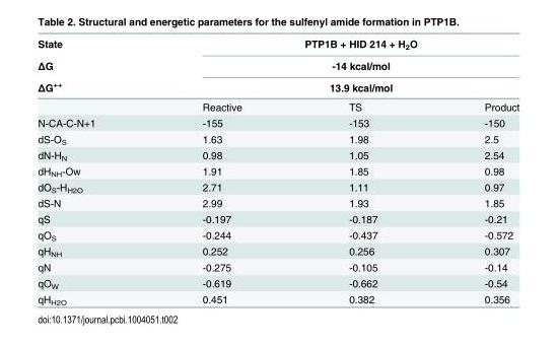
<table><thead><tr><td rowspan="4">State ΔG ΔG<sup>++</sup></td><td rowspan="3" colspan="3">PTP1B + HID 214 + H<sub>2</sub>O -14 kcal/mol 13.9 kcal/mol</td></tr><tr></tr><tr></tr><tr><td>Reactive</td><td>TS</td><td>Product</td></tr></thead><tbody><tr><td>N-CA-C-N+1</td><td>-155</td><td>-153</td><td>-150</td></tr><tr><td>dS-O<sub>S</sub></td><td>1.63</td><td>1.98</td><td>2.5</td></tr><tr><td>dN-H<sub>N</sub></td><td>0.98</td><td>1.05</td><td>2.54</td></tr><tr><td>dH<sub>NH</sub>-Ow</td><td>1.91</td><td>1.85</td><td>0.98</td></tr><tr><td>dO<sub>S</sub>-H<sub>H2O</sub></td><td>2.71</td><td>1.11</td><td>0.97</td></tr><tr><td>dS-N</td><td>2.99</td><td>1.93</td><td>1.85</td></tr><tr><td>qS</td><td>-0.197</td><td>-0.187</td><td>-0.21</td></tr><tr><td>qO<sub>S</sub></td><td>-0.244</td><td>-0.437</td><td>-0.572</td></tr><tr><td>qH<sub>NH</sub></td><td>0.252</td><td>0.256</td><td>0.307</td></tr><tr><td>qN</td><td>-0.275</td><td>-0.105</td><td>-0.14</td></tr><tr><td>qO<sub>W</sub></td><td>-0.619</td><td>-0.662</td><td>-0.54</td></tr><tr><td>qH<sub>H2O</sub></td><td>0.451</td><td>0.382</td><td>0.356</td></tr></tbody></table>